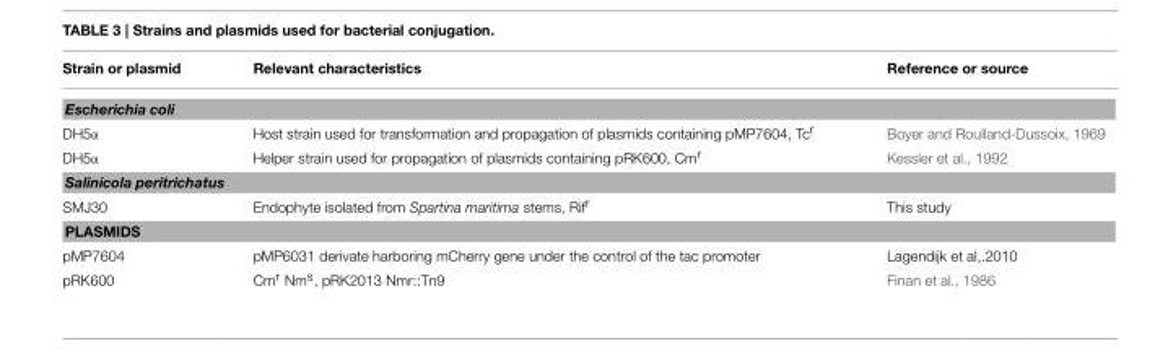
<table><thead><tr><td>Strain or plasmid</td><td>Relevant characteristics</td><td>Reference or source</td></tr></thead><tbody><tr><td colspan="3">Escherichia coli</td></tr><tr><td>DH5α</td><td>Host strain used for transformation and propagation of plasmids containing pMP7604, Tc<sup>r</sup></td><td>Boyer and Roulland-Dussoix, 1969</td></tr><tr><td>DH5α</td><td>Helper strain used for propagation of plasmids containing pRK600, Cm<sup>r</sup></td><td>Kessler et al., 1992</td></tr><tr><td colspan="3">Salinicola peritrichatus</td></tr><tr><td>SMJ30</td><td>Endophyte isolated from Spartina maritima stems, Rif<sup>r</sup></td><td>This study</td></tr><tr><td colspan="3">PLASMIDS</td></tr><tr><td>pMP7604</td><td>pMP6031 derivate harboring mCherry gene under the control of the tac promoter</td><td>Lagendijk et al,.2010</td></tr><tr><td>pRK600</td><td>Cm<sup>r</sup> Nm<sup>s</sup>, pRK2013 Nmr::Tn9</td><td>Finan et al., 1986</td></tr></tbody></table>